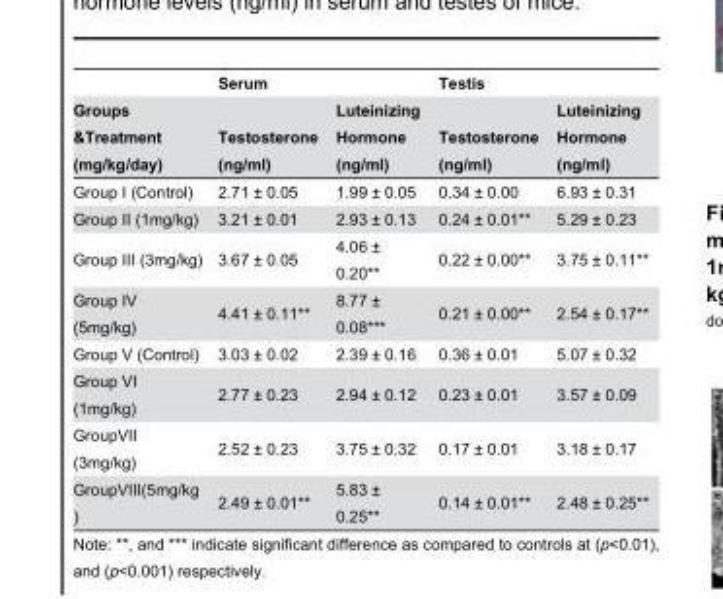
<table><thead><tr><td rowspan="2">Groups &amp;Treatment (mg/kg/day)</td><td colspan="2">Serum</td><td colspan="2">Testis</td></tr><tr><td>Testosterone (ng/ml)</td><td>Luteinizing Hormone (ng/ml)</td><td>Testosterone (ng/ml)</td><td>Luteinizing Hormone (ng/ml)</td></tr></thead><tbody><tr><td>Group I (Control)</td><td>2.71 ± 0.05</td><td>1.99 ± 0.05</td><td>0.34 ± 0.00</td><td>6.93 ± 0.31</td></tr><tr><td>Group II (1mg/kg)</td><td>3.21 ± 0.01</td><td>2.93 ± 0.13</td><td>0.24 ± 0.01**</td><td>5.29 ± 0.23</td></tr><tr><td>Group III (3mg/kg)</td><td>3.67 ± 0.05</td><td>4.06 ± 0.20**</td><td>0.22 ± 0.00**</td><td>3.75 ± 0.11**</td></tr><tr><td>Group IV (5mg/kg)</td><td>4.41 ± 0.11**</td><td>8.77 ± 0.08***</td><td>0.21 ± 0.00**</td><td>2.54 ± 0.17**</td></tr><tr><td>Group V (Control)</td><td>3.03 ± 0.02</td><td>2.39 ± 0.16</td><td>0.36 ± 0.01</td><td>5.07 ± 0.32</td></tr><tr><td>Group VI (1mg/kg)</td><td>2.77 ± 0.23</td><td>2.94 ± 0.12</td><td>0.23 ± 0.01</td><td>3.57 ± 0.09</td></tr><tr><td>GroupVII (3mg/kg)</td><td>2.52 ± 0.23</td><td>3.75 ± 0.32</td><td>0.17 ± 0.01</td><td>3.18 ± 0.17</td></tr><tr><td>GroupVIII(5mg/kg )</td><td>2.49 ± 0.01**</td><td>5.83 ± 0.25**</td><td>0.14 ± 0.01**</td><td>2.48 ± 0.25**</td></tr></tbody></table>